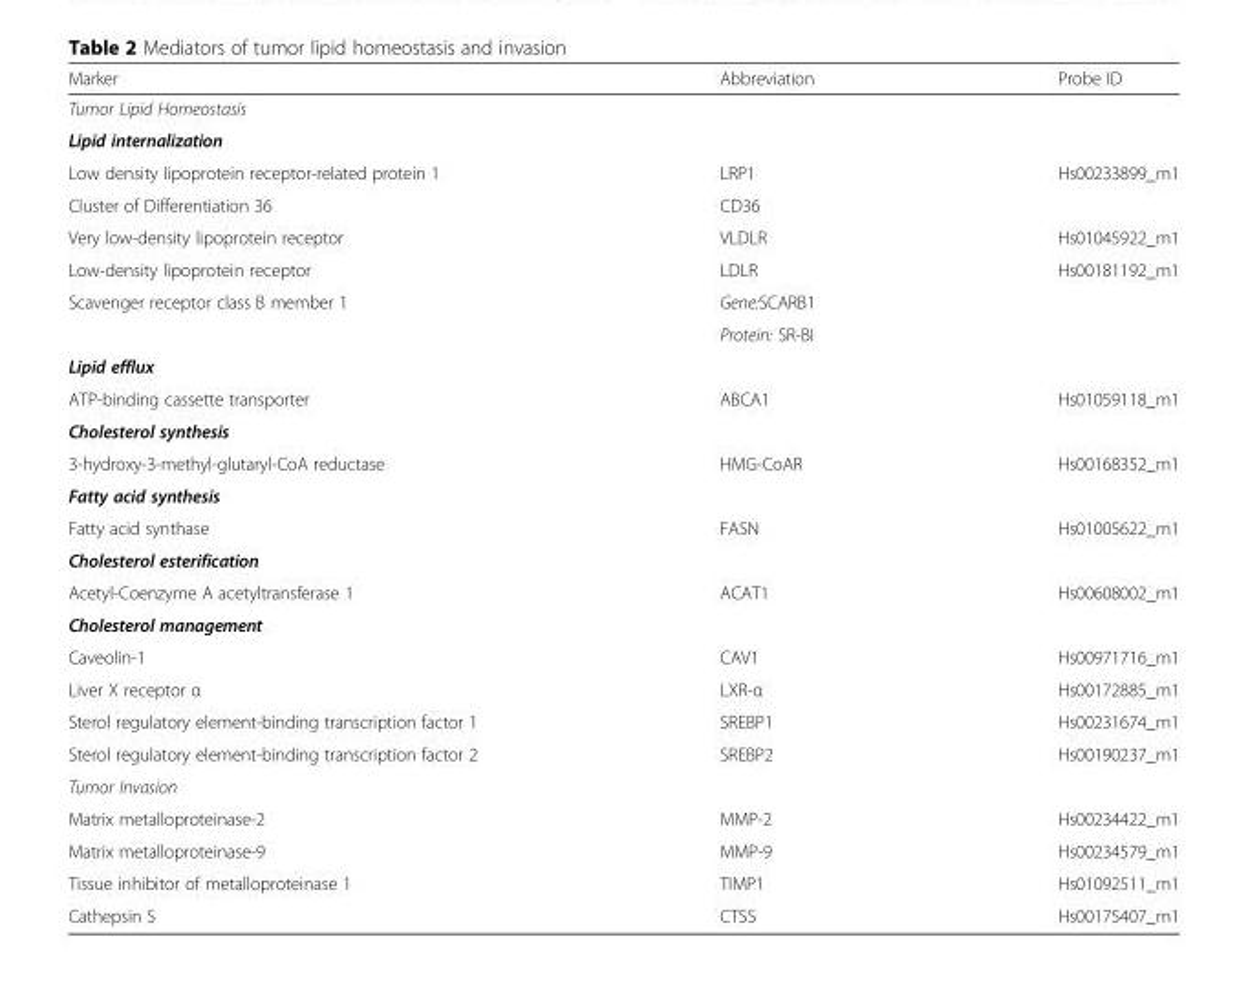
<table><thead><tr><td>Marker</td><td>Abbreviation</td><td>Probe ID</td></tr></thead><tbody><tr><td colspan="3">Tumor Lipid Homeostasis</td></tr><tr><td colspan="3">Lipid internalization</td></tr><tr><td>Low density lipoprotein receptor-related protein 1</td><td>LRP1</td><td>Hs00233899_m1</td></tr><tr><td>Cluster of Differentiation 36</td><td>CD36</td><td></td></tr><tr><td>Very low-density lipoprotein receptor</td><td>VLDLR</td><td>Hs01045922_m1</td></tr><tr><td>Low-density lipoprotein receptor</td><td>LDLR</td><td>Hs00181192_m1</td></tr><tr><td rowspan="2">Scavenger receptor class B member 1</td><td>Gene:SCARB1</td><td rowspan="2"></td></tr><tr><td>Protein: SR-BI</td></tr><tr><td colspan="3">Lipid efflux</td></tr><tr><td>ATP-binding cassette transporter</td><td>ABCA1</td><td>Hs01059118_m1</td></tr><tr><td colspan="3">Cholesterol synthesis</td></tr><tr><td>3-hydroxy-3-methyl-glutaryl-CoA reductase</td><td>HMG-CoAR</td><td>Hs00168352_m1</td></tr><tr><td colspan="3">Fatty acid synthesis</td></tr><tr><td>Fatty acid synthase</td><td>FASN</td><td>Hs01005622_m1</td></tr><tr><td colspan="3">Cholesterol esterification</td></tr><tr><td>Acetyl-Coenzyme A acetyltransferase 1</td><td>ACAT1</td><td>Hs00608002_m1</td></tr><tr><td colspan="3">Cholesterol management</td></tr><tr><td>Caveolin-1</td><td>CAV1</td><td>Hs00971716_m1</td></tr><tr><td>Liver X receptor α</td><td>LXR-α</td><td>Hs00172885_m1</td></tr><tr><td>Sterol regulatory element-binding transcription factor 1</td><td>SREBP1</td><td>Hs00231674_m1</td></tr><tr><td>Sterol regulatory element-binding transcription factor 2</td><td>SREBP2</td><td>Hs00190237_m1</td></tr><tr><td colspan="3">Tumor Invasion</td></tr><tr><td>Matrix metalloproteinase-2</td><td>MMP-2</td><td>Hs00234422_m1</td></tr><tr><td>Matrix metalloproteinase-9</td><td>MMP-9</td><td>Hs00234579_m1</td></tr><tr><td>Tissue inhibitor of metalloproteinase 1</td><td>TIMP1</td><td>Hs01092511_m1</td></tr><tr><td>Cathepsin S</td><td>CTSS</td><td>Hs00175407_m1</td></tr></tbody></table>